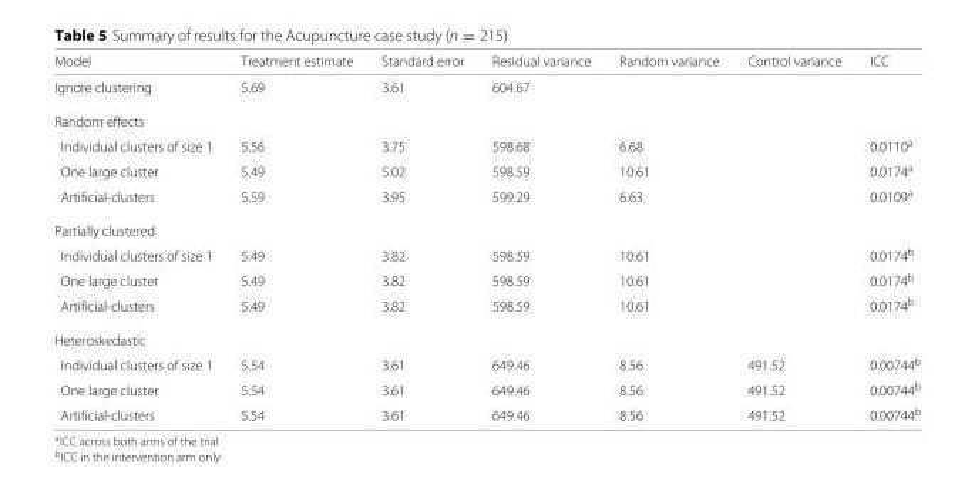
<table><thead><tr><td>Model</td><td>Treatment estimate</td><td>Standard error</td><td>Residual variance</td><td>Random variance</td><td>Control variance</td><td>ICC</td></tr></thead><tbody><tr><td>Ignore clustering</td><td>5.69</td><td>3.61</td><td>604.67</td><td></td><td></td><td></td></tr><tr><td colspan="7">Random effects</td></tr><tr><td>Individual clusters of size 1</td><td>5.56</td><td>3.75</td><td>598.68</td><td>6.68</td><td></td><td>0.0110<sup>a</sup></td></tr><tr><td>One large cluster</td><td>5.49</td><td>5.02</td><td>598.59</td><td>10.61</td><td></td><td>0.0174<sup>a</sup></td></tr><tr><td>Artificial-clusters</td><td>5.59</td><td>3.95</td><td>599.29</td><td>6.63</td><td></td><td>0.0109<sup>a</sup></td></tr><tr><td colspan="7">Partially clustered</td></tr><tr><td>Individual clusters of size 1</td><td>5.49</td><td>3.82</td><td>598.59</td><td>10.61</td><td></td><td>0.0174<sup>b</sup></td></tr><tr><td>One large cluster</td><td>5.49</td><td>3.82</td><td>598.59</td><td>10.61</td><td></td><td>0.0174<sup>b</sup></td></tr><tr><td>Artificial-clusters</td><td>5.49</td><td>3.82</td><td>598.59</td><td>10.61</td><td></td><td>0.0174<sup>b</sup></td></tr><tr><td colspan="7">Heteroskedastic</td></tr><tr><td>Individual clusters of size 1</td><td>5.54</td><td>3.61</td><td>649.46</td><td>8.56</td><td>491.52</td><td>0.00744<sup>b</sup></td></tr><tr><td>One large cluster</td><td>5.54</td><td>3.61</td><td>649.46</td><td>8.56</td><td>491.52</td><td>0.00744<sup>b</sup></td></tr><tr><td>Artificial-clusters</td><td>5.54</td><td>3.61</td><td>649.46</td><td>8.56</td><td>491.52</td><td>0.00744<sup>b</sup></td></tr></tbody></table>